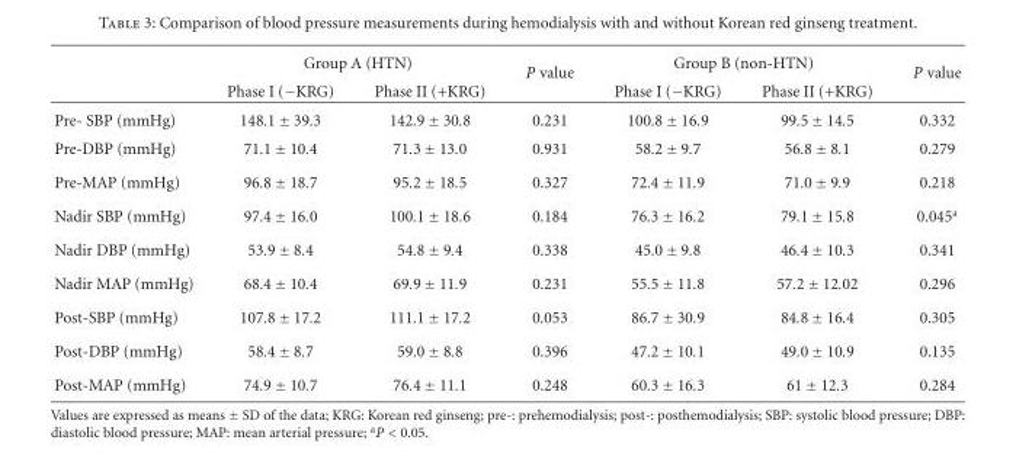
<table><thead><tr><td rowspan="2"></td><td colspan="2">Group A (HTN)</td><td rowspan="2">P value</td><td colspan="2">Group B (non-HTN)</td><td rowspan="2">P value</td></tr><tr><td>Phase I (−KRG)</td><td>Phase II (+KRG)</td><td>Phase I (−KRG)</td><td>Phase II (+KRG)</td></tr></thead><tbody><tr><td>Pre- SBP (mmHg)</td><td>148.1 ± 39.3</td><td>142.9 ± 30.8</td><td>0.231</td><td>100.8 ± 16.9</td><td>99.5 ± 14.5</td><td>0.332</td></tr><tr><td>Pre-DBP (mmHg)</td><td>71.1 ± 10.4</td><td>71.3 ± 13.0</td><td>0.931</td><td>58.2 ± 9.7</td><td>56.8 ± 8.1</td><td>0.279</td></tr><tr><td>Pre-MAP (mmHg)</td><td>96.8 ± 18.7</td><td>95.2 ± 18.5</td><td>0.327</td><td>72.4 ± 11.9</td><td>71.0 ± 9.9</td><td>0.218</td></tr><tr><td>Nadir SBP (mmHg)</td><td>97.4 ± 16.0</td><td>100.1 ± 18.6</td><td>0.184</td><td>76.3 ± 16.2</td><td>79.1 ± 15.8</td><td>0.045<sup>a</sup></td></tr><tr><td>Nadir DBP (mmHg)</td><td>53.9 ± 8.4</td><td>54.8 ± 9.4</td><td>0.338</td><td>45.0 ± 9.8</td><td>46.4 ± 10.3</td><td>0.341</td></tr><tr><td>Nadir MAP (mmHg)</td><td>68.4 ± 10.4</td><td>69.9 ± 11.9</td><td>0.231</td><td>55.5 ± 11.8</td><td>57.2 ± 12.02</td><td>0.296</td></tr><tr><td>Post-SBP (mmHg)</td><td>107.8 ± 17.2</td><td>111.1 ± 17.2</td><td>0.053</td><td>86.7 ± 30.9</td><td>84.8 ± 16.4</td><td>0.305</td></tr><tr><td>Post-DBP (mmHg)</td><td>58.4 ± 8.7</td><td>59.0 ± 8.8</td><td>0.396</td><td>47.2 ± 10.1</td><td>49.0 ± 10.9</td><td>0.135</td></tr><tr><td>Post-MAP (mmHg)</td><td>74.9 ± 10.7</td><td>76.4 ± 11.1</td><td>0.248</td><td>60.3 ± 16.3</td><td>61 ± 12.3</td><td>0.284</td></tr></tbody></table>